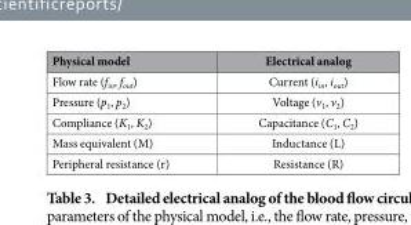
<table><thead><tr><td>Physical model</td><td>Electrical analog</td></tr></thead><tbody><tr><td>Flow rate (f<sub>in</sub>, f<sub>out</sub>)</td><td>Current (i<sub>in</sub>, i<sub>out</sub>)</td></tr><tr><td>Pressure (p<sub>1</sub>, p<sub>2</sub>)</td><td>Voltage (v<sub>1</sub>, v<sub>2</sub>)</td></tr><tr><td>Compliance (K<sub>1</sub>, K<sub>2</sub>)</td><td>Capacitance (C<sub>1</sub>, C<sub>2</sub>)</td></tr><tr><td>Mass equivalent (M)</td><td>Inductance (L)</td></tr><tr><td>Peripheral resistance (r)</td><td>Resistance (R)</td></tr></tbody></table>